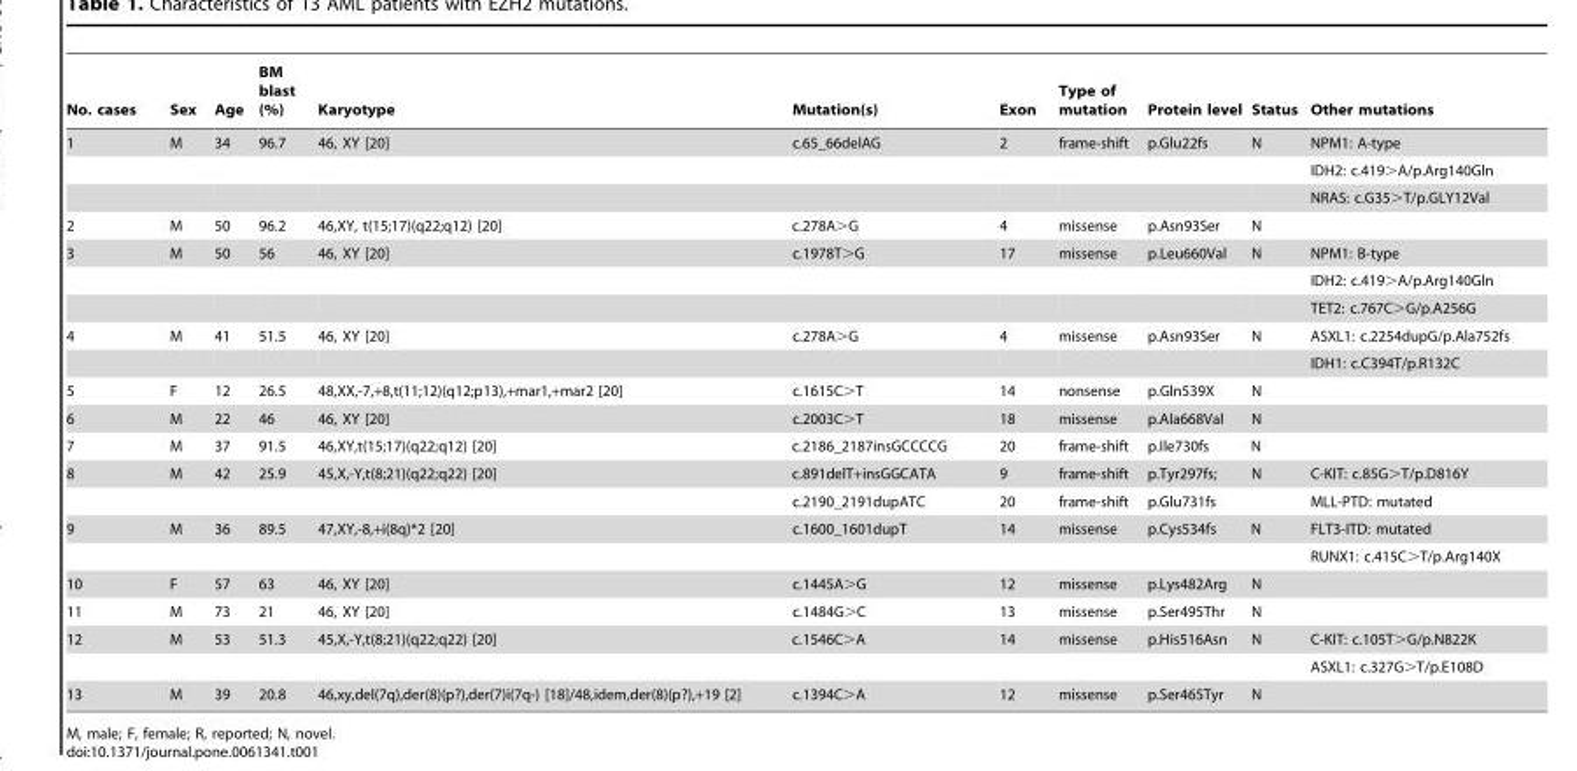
<table><thead><tr><td>No. cases</td><td>Sex</td><td>Age</td><td>BM blast (%)</td><td>Karyotype</td><td>Mutation(s)</td><td>Exon</td><td>Type of mutation</td><td>Protein level</td><td>Status</td><td>Other mutations</td></tr></thead><tbody><tr><td rowspan="3">1</td><td>M</td><td>34</td><td>96.7</td><td>46, XY [20]</td><td>c.65_66delAG</td><td>2</td><td>frame-shift</td><td>p.Glu22fs</td><td>N</td><td>NPM1: A-type</td></tr><tr><td></td><td></td><td></td><td></td><td></td><td></td><td></td><td></td><td></td><td>IDH2: c.419&gt;A/p.Arg140Gln</td></tr><tr><td></td><td></td><td></td><td></td><td></td><td></td><td></td><td></td><td></td><td>NRAS: c.G35&gt;T/p.GLY12Val</td></tr><tr><td>2</td><td>M</td><td>50</td><td>96.2</td><td>46,XY, t(15;17)(q22;q12) [20]</td><td>c.278A&gt;G</td><td>4</td><td>missense</td><td>p.Asn93Ser</td><td>N</td><td></td></tr><tr><td rowspan="3">3</td><td>M</td><td>50</td><td>56</td><td>46, XY [20]</td><td>c.1978T&gt;G</td><td>17</td><td>missense</td><td>p.Leu660Val</td><td>N</td><td>NPM1: B-type</td></tr><tr><td></td><td></td><td></td><td></td><td></td><td></td><td></td><td></td><td></td><td>IDH2: c.419&gt;A/p.Arg140Gln</td></tr><tr><td></td><td></td><td></td><td></td><td></td><td></td><td></td><td></td><td></td><td>TET2: c.767C&gt;G/p.A256G</td></tr><tr><td rowspan="2">4</td><td>M</td><td>41</td><td>51.5</td><td>46, XY [20]</td><td>c.278A&gt;G</td><td>4</td><td>missense</td><td>p.Asn93Ser</td><td>N</td><td>ASXL1: c.2254dupG/p.Ala752fs</td></tr><tr><td></td><td></td><td></td><td></td><td></td><td></td><td></td><td></td><td></td><td>IDH1: c.C394T/p.R132C</td></tr><tr><td>5</td><td>F</td><td>12</td><td>26.5</td><td>48,XX,-7,+8,t(11;12)(q12;p13),+mar1,+mar2 [20]</td><td>c.1615C&gt;T</td><td>14</td><td>nonsense</td><td>p.Gln539X</td><td>N</td><td></td></tr><tr><td>6</td><td>M</td><td>22</td><td>46</td><td>46, XY [20]</td><td>c.2003C&gt;T</td><td>18</td><td>missense</td><td>p.Ala668Val</td><td>N</td><td></td></tr><tr><td>7</td><td>M</td><td>37</td><td>91.5</td><td>46,XY,t(15;17)(q22;q12) [20]</td><td>c.2186_2187insGCCCCG</td><td>20</td><td>frame-shift</td><td>p.Ile730fs</td><td>N</td><td></td></tr><tr><td rowspan="2">8</td><td>M</td><td>42</td><td>25.9</td><td>45,X,-Y,t(8;21)(q22;q22) [20]</td><td>c.891delT+insGGCATA</td><td>9</td><td>frame-shift</td><td>p.Tyr297fs;</td><td>N</td><td>C-KIT: c.85G&gt;T/p.D816Y</td></tr><tr><td></td><td></td><td></td><td></td><td>c.2190_2191dupATC</td><td>20</td><td>frame-shift</td><td>p.Glu731fs</td><td></td><td>MLL-PTD: mutated</td></tr><tr><td rowspan="2">9</td><td>M</td><td>36</td><td>89.5</td><td>47,XY,-8,+i(8q)*2 [20]</td><td>c.1600_1601dupT</td><td>14</td><td>missense</td><td>p.Cys534fs</td><td>N</td><td>FLT3-ITD: mutated</td></tr><tr><td></td><td></td><td></td><td></td><td></td><td></td><td></td><td></td><td></td><td>RUNX1: c.415C&gt;T/p.Arg140X</td></tr><tr><td>10</td><td>F</td><td>57</td><td>63</td><td>46, XY [20]</td><td>c.1445A&gt;G</td><td>12</td><td>missense</td><td>p.Lys482Arg</td><td>N</td><td></td></tr><tr><td>11</td><td>M</td><td>73</td><td>21</td><td>46, XY [20]</td><td>c.1484G&gt;C</td><td>13</td><td>missense</td><td>p.Ser495Thr</td><td>N</td><td></td></tr><tr><td rowspan="2">12</td><td>M</td><td>53</td><td>51.3</td><td>45,X,-Y,t(8;21)(q22;q22) [20]</td><td>c.1546C&gt;A</td><td>14</td><td>missense</td><td>p.His516Asn</td><td>N</td><td>C-KIT: c.105T&gt;G/p.N822K</td></tr><tr><td></td><td></td><td></td><td></td><td></td><td></td><td></td><td></td><td></td><td>ASXL1: c.327G&gt;T/p.E108D</td></tr><tr><td>13</td><td>M</td><td>39</td><td>20.8</td><td>46,xy,del(7q),der(8)(p?),der(7)i(7q-) [18]/48,idem,der(8)(p?),+19 [2]</td><td>c.1394C&gt;A</td><td>12</td><td>missense</td><td>p.Ser465Tyr</td><td>N</td><td></td></tr></tbody></table>